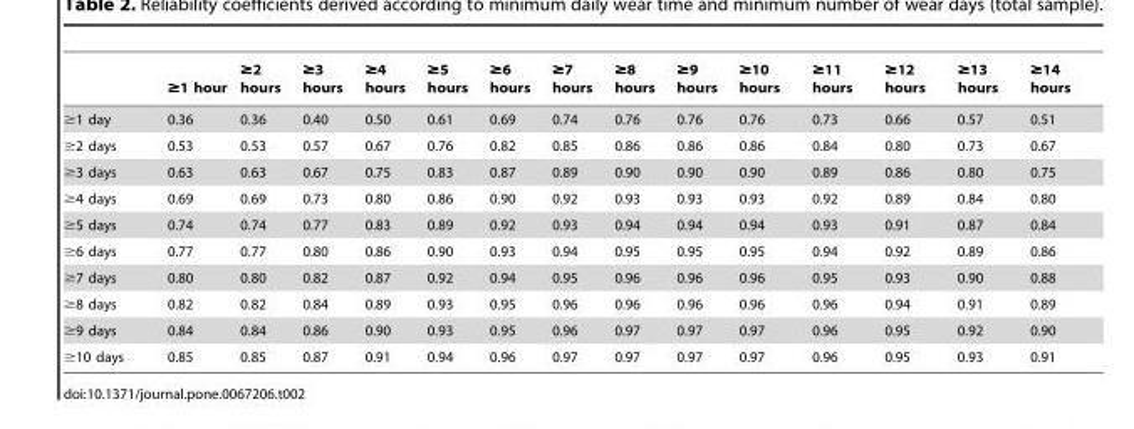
<table><thead><tr><td></td><td>≥1 hour</td><td>≥2 hours</td><td>≥3 hours</td><td>≥4 hours</td><td>≥5 hours</td><td>≥6 hours</td><td>≥7 hours</td><td>≥8 hours</td><td>≥9 hours</td><td>≥10 hours</td><td>≥11 hours</td><td>≥12 hours</td><td>≥13 hours</td><td>≥14 hours</td></tr></thead><tbody><tr><td>≥1 day</td><td>0.36</td><td>0.36</td><td>0.40</td><td>0.50</td><td>0.61</td><td>0.69</td><td>0.74</td><td>0.76</td><td>0.76</td><td>0.76</td><td>0.73</td><td>0.66</td><td>0.57</td><td>0.51</td></tr><tr><td>≥2 days</td><td>0.53</td><td>0.53</td><td>0.57</td><td>0.67</td><td>0.76</td><td>0.82</td><td>0.85</td><td>0.86</td><td>0.86</td><td>0.86</td><td>0.84</td><td>0.80</td><td>0.73</td><td>0.67</td></tr><tr><td>≥3 days</td><td>0.63</td><td>0.63</td><td>0.67</td><td>0.75</td><td>0.83</td><td>0.87</td><td>0.89</td><td>0.90</td><td>0.90</td><td>0.90</td><td>0.89</td><td>0.86</td><td>0.80</td><td>0.75</td></tr><tr><td>≥4 days</td><td>0.69</td><td>0.69</td><td>0.73</td><td>0.80</td><td>0.86</td><td>0.90</td><td>0.92</td><td>0.93</td><td>0.93</td><td>0.93</td><td>0.92</td><td>0.89</td><td>0.84</td><td>0.80</td></tr><tr><td>≥5 days</td><td>0.74</td><td>0.74</td><td>0.77</td><td>0.83</td><td>0.89</td><td>0.92</td><td>0.93</td><td>0.94</td><td>0.94</td><td>0.94</td><td>0.93</td><td>0.91</td><td>0.87</td><td>0.84</td></tr><tr><td>≥6 days</td><td>0.77</td><td>0.77</td><td>0.80</td><td>0.86</td><td>0.90</td><td>0.93</td><td>0.94</td><td>0.95</td><td>0.95</td><td>0.95</td><td>0.94</td><td>0.92</td><td>0.89</td><td>0.86</td></tr><tr><td>≥7 days</td><td>0.80</td><td>0.80</td><td>0.82</td><td>0.87</td><td>0.92</td><td>0.94</td><td>0.95</td><td>0.96</td><td>0.96</td><td>0.96</td><td>0.95</td><td>0.93</td><td>0.90</td><td>0.88</td></tr><tr><td>≥8 days</td><td>0.82</td><td>0.82</td><td>0.84</td><td>0.89</td><td>0.93</td><td>0.95</td><td>0.96</td><td>0.96</td><td>0.96</td><td>0.96</td><td>0.96</td><td>0.94</td><td>0.91</td><td>0.89</td></tr><tr><td>≥9 days</td><td>0.84</td><td>0.84</td><td>0.86</td><td>0.90</td><td>0.93</td><td>0.95</td><td>0.96</td><td>0.97</td><td>0.97</td><td>0.97</td><td>0.96</td><td>0.95</td><td>0.92</td><td>0.90</td></tr><tr><td>≥10 days</td><td>0.85</td><td>0.85</td><td>0.87</td><td>0.91</td><td>0.94</td><td>0.96</td><td>0.97</td><td>0.97</td><td>0.97</td><td>0.97</td><td>0.96</td><td>0.95</td><td>0.93</td><td>0.91</td></tr></tbody></table>